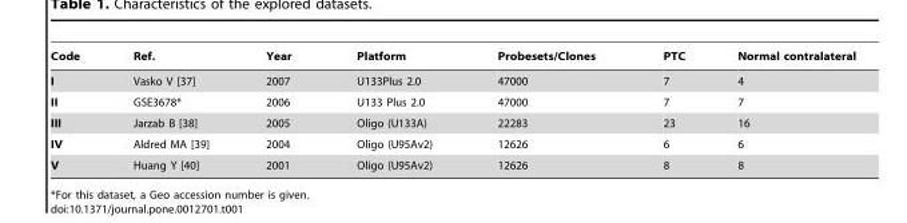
<table><thead><tr><td>Code</td><td>Ref.</td><td>Year</td><td>Platform</td><td>Probesets/Clones</td><td>PTC</td><td>Normal contralateral</td></tr></thead><tbody><tr><td>I</td><td>Vasko V [37]</td><td>2007</td><td>U133Plus 2.0</td><td>47000</td><td>7</td><td>4</td></tr><tr><td>II</td><td>GSE3678*</td><td>2006</td><td>U133 Plus 2.0</td><td>47000</td><td>7</td><td>7</td></tr><tr><td>III</td><td>Jarzab B [38]</td><td>2005</td><td>Oligo (U133A)</td><td>22283</td><td>23</td><td>16</td></tr><tr><td>IV</td><td>Aldred MA [39]</td><td>2004</td><td>Oligo (U95Av2)</td><td>12626</td><td>6</td><td>6</td></tr><tr><td>V</td><td>Huang Y [40]</td><td>2001</td><td>Oligo (U95Av2)</td><td>12626</td><td>8</td><td>8</td></tr></tbody></table>